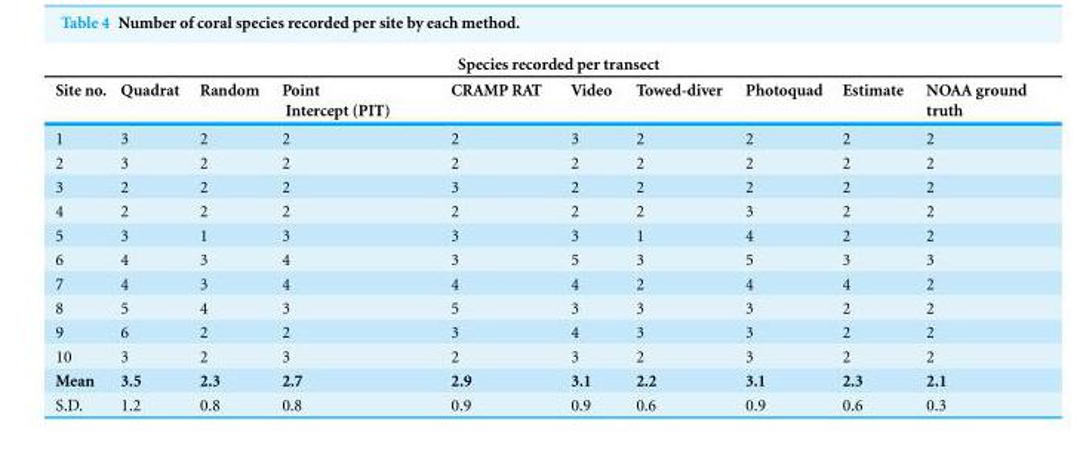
<table><thead><tr><td colspan="10">Species recorded per transect</td></tr><tr><td>Site no.</td><td>Quadrat</td><td>Random</td><td>Point Intercept (PIT)</td><td>CRAMP RAT</td><td>Video</td><td>Towed-diver</td><td>Photoquad</td><td>Estimate</td><td>NOAA ground truth</td></tr></thead><tbody><tr><td>1</td><td>3</td><td>2</td><td>2</td><td>2</td><td>3</td><td>2</td><td>2</td><td>2</td><td>2</td></tr><tr><td>2</td><td>3</td><td>2</td><td>2</td><td>2</td><td>2</td><td>2</td><td>2</td><td>2</td><td>2</td></tr><tr><td>3</td><td>2</td><td>2</td><td>2</td><td>3</td><td>2</td><td>2</td><td>2</td><td>2</td><td>2</td></tr><tr><td>4</td><td>2</td><td>2</td><td>2</td><td>2</td><td>2</td><td>2</td><td>3</td><td>2</td><td>2</td></tr><tr><td>5</td><td>3</td><td>1</td><td>3</td><td>3</td><td>3</td><td>1</td><td>4</td><td>2</td><td>2</td></tr><tr><td>6</td><td>4</td><td>3</td><td>4</td><td>3</td><td>5</td><td>3</td><td>5</td><td>3</td><td>3</td></tr><tr><td>7</td><td>4</td><td>3</td><td>4</td><td>4</td><td>4</td><td>2</td><td>4</td><td>4</td><td>2</td></tr><tr><td>8</td><td>5</td><td>4</td><td>3</td><td>5</td><td>3</td><td>3</td><td>3</td><td>2</td><td>2</td></tr><tr><td>9</td><td>6</td><td>2</td><td>2</td><td>3</td><td>4</td><td>3</td><td>3</td><td>2</td><td>2</td></tr><tr><td>10</td><td>3</td><td>2</td><td>3</td><td>2</td><td>3</td><td>2</td><td>3</td><td>2</td><td>2</td></tr><tr><td>Mean</td><td>3.5</td><td>2.3</td><td>2.7</td><td>2.9</td><td>3.1</td><td>2.2</td><td>3.1</td><td>2.3</td><td>2.1</td></tr><tr><td>S.D.</td><td>1.2</td><td>0.8</td><td>0.8</td><td>0.9</td><td>0.9</td><td>0.6</td><td>0.9</td><td>0.6</td><td>0.3</td></tr></tbody></table>